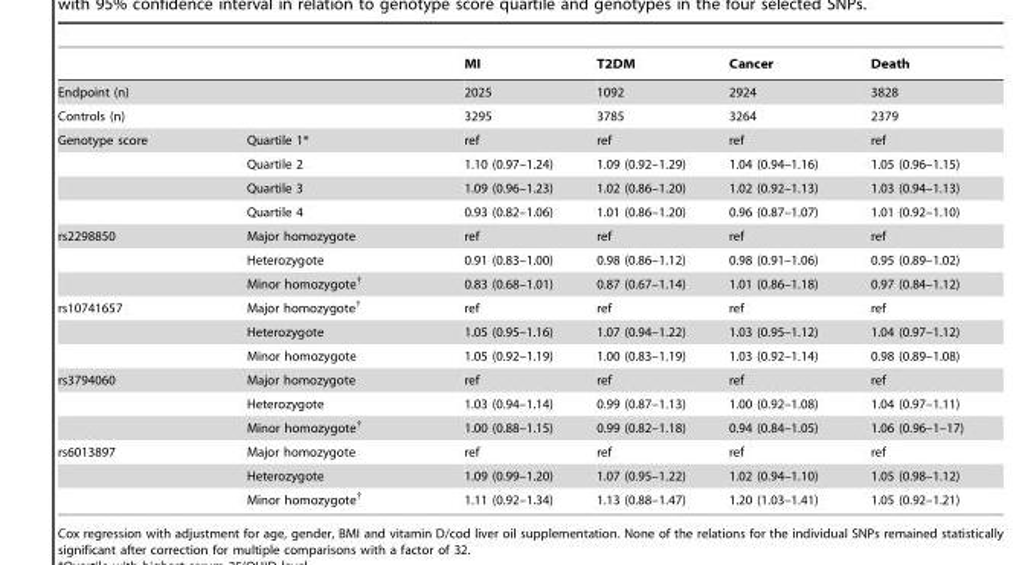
<table><thead><tr><td></td><td></td><td>MI</td><td>T2DM</td><td>Cancer</td><td>Death</td></tr></thead><tbody><tr><td>Endpoint (n)</td><td></td><td>2025</td><td>1092</td><td>2924</td><td>3828</td></tr><tr><td>Controls (n)</td><td></td><td>3295</td><td>3785</td><td>3264</td><td>2379</td></tr><tr><td rowspan="4">Genotype score</td><td>Quartile 1*</td><td>ref</td><td>ref</td><td>ref</td><td>ref</td></tr><tr><td>Quartile 2</td><td>1.10 (0.97–1.24)</td><td>1.09 (0.92–1.29)</td><td>1.04 (0.94–1.16)</td><td>1.05 (0.96–1.15)</td></tr><tr><td>Quartile 3</td><td>1.09 (0.96–1.23)</td><td>1.02 (0.86–1.20)</td><td>1.02 (0.92–1.13)</td><td>1.03 (0.94–1.13)</td></tr><tr><td>Quartile 4</td><td>0.93 (0.82–1.06)</td><td>1.01 (0.86–1.20)</td><td>0.96 (0.87–1.07)</td><td>1.01 (0.92–1.10)</td></tr><tr><td rowspan="3">rs2298850</td><td>Major homozygote</td><td>ref</td><td>ref</td><td>ref</td><td>ref</td></tr><tr><td>Heterozygote</td><td>0.91 (0.83–1.00)</td><td>0.98 (0.86–1.12)</td><td>0.98 (0.91–1.06)</td><td>0.95 (0.89–1.02)</td></tr><tr><td>Minor homozygote†</td><td>0.83 (0.68–1.01)</td><td>0.87 (0.67–1.14)</td><td>1.01 (0.86–1.18)</td><td>0.97 (0.84–1.12)</td></tr><tr><td rowspan="3">rs10741657</td><td>Major homozygote†</td><td>ref</td><td>ref</td><td>ref</td><td>ref</td></tr><tr><td>Heterozygote</td><td>1.05 (0.95–1.16)</td><td>1.07 (0.94–1.22)</td><td>1.03 (0.95–1.12)</td><td>1.04 (0.97–1.12)</td></tr><tr><td>Minor homozygote</td><td>1.05 (0.92–1.19)</td><td>1.00 (0.83–1.19)</td><td>1.03 (0.92–1.14)</td><td>0.98 (0.89–1.08)</td></tr><tr><td rowspan="3">rs3794060</td><td>Major homozygote</td><td>ref</td><td>ref</td><td>ref</td><td>ref</td></tr><tr><td>Heterozygote</td><td>1.03 (0.94–1.14)</td><td>0.99 (0.87–1.13)</td><td>1.00 (0.92–1.08)</td><td>1.04 (0.97–1.11)</td></tr><tr><td>Minor homozygote†</td><td>1.00 (0.88–1.15)</td><td>0.99 (0.82–1.18)</td><td>0.94 (0.84–1.05)</td><td>1.06 (0.96–1–17)</td></tr><tr><td rowspan="3">rs6013897</td><td>Major homozygote</td><td>ref</td><td>ref</td><td>ref</td><td>ref</td></tr><tr><td>Heterozygote</td><td>1.09 (0.99–1.20)</td><td>1.07 (0.95–1.22)</td><td>1.02 (0.94–1.10)</td><td>1.05 (0.98–1.12)</td></tr><tr><td>Minor homozygote†</td><td>1.11 (0.92–1.34)</td><td>1.13 (0.88–1.47)</td><td>1.20 (1.03–1.41)</td><td>1.05 (0.92–1.21)</td></tr></tbody></table>